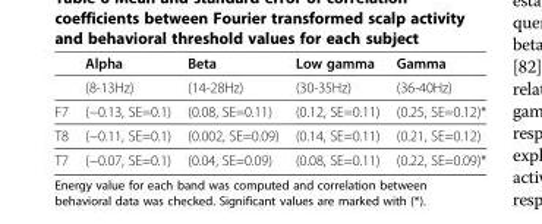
<table><thead><tr><td></td><td>Alpha</td><td>Beta</td><td>Low gamma</td><td>Gamma</td></tr></thead><tbody><tr><td></td><td>(8-13Hz)</td><td>(14-28Hz)</td><td>(30-35Hz)</td><td>(36-40Hz)</td></tr><tr><td>F7</td><td>(−0.13, SE=0.1)</td><td>(0.08, SE=0.11)</td><td>(0.12, SE=0.11)</td><td>(0.25, SE=0.12)*</td></tr><tr><td>T8</td><td>(−0.11, SE=0.1)</td><td>(0.002, SE=0.09)</td><td>(0.14, SE=0.11)</td><td>(0.21, SE=0.12)</td></tr><tr><td>T7</td><td>(−0.07, SE=0.1)</td><td>(0.04, SE=0.09)</td><td>(0.08, SE=0.11)</td><td>(0.22, SE=0.09)*</td></tr></tbody></table>